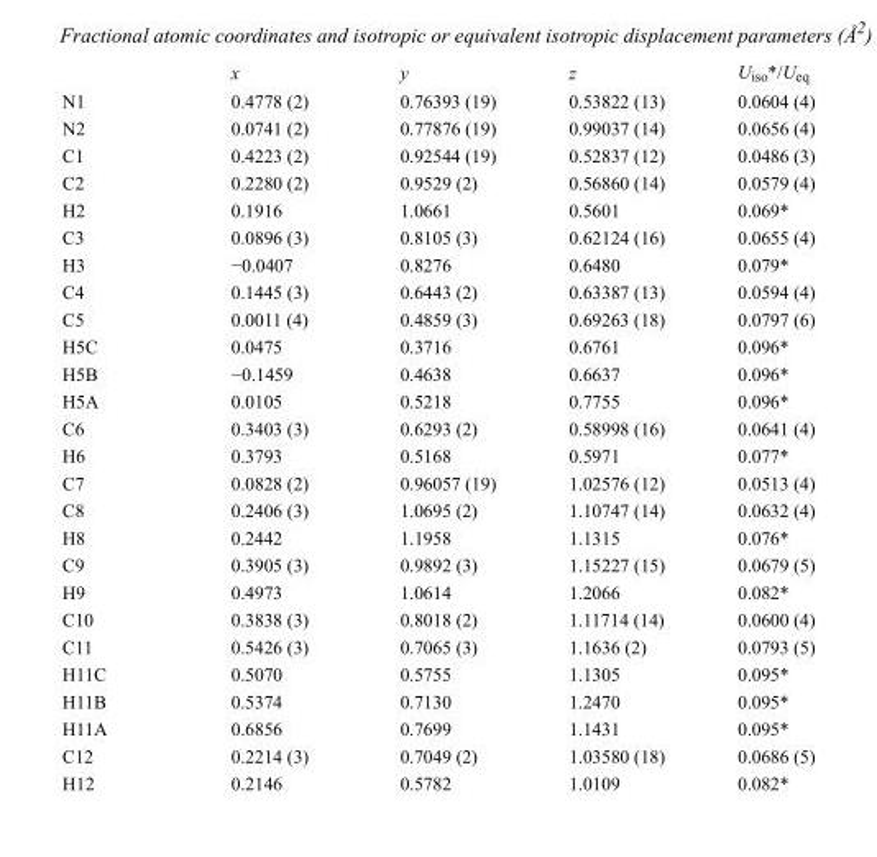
<table><thead><tr><td></td><td>x</td><td>y</td><td>z</td><td>U<sub>iso</sub>*/U<sub>eq</sub></td></tr></thead><tbody><tr><td>N1</td><td>0.4778 (2)</td><td>0.76393 (19)</td><td>0.53822 (13)</td><td>0.0604 (4)</td></tr><tr><td>N2</td><td>0.0741 (2)</td><td>0.77876 (19)</td><td>0.99037 (14)</td><td>0.0656 (4)</td></tr><tr><td>C1</td><td>0.4223 (2)</td><td>0.92544 (19)</td><td>0.52837 (12)</td><td>0.0486 (3)</td></tr><tr><td>C2</td><td>0.2280 (2)</td><td>0.9529 (2)</td><td>0.56860 (14)</td><td>0.0579 (4)</td></tr><tr><td>H2</td><td>0.1916</td><td>1.0661</td><td>0.5601</td><td>0.069*</td></tr><tr><td>C3</td><td>0.0896 (3)</td><td>0.8105 (3)</td><td>0.62124 (16)</td><td>0.0655 (4)</td></tr><tr><td>H3</td><td>−0.0407</td><td>0.8276</td><td>0.6480</td><td>0.079*</td></tr><tr><td>C4</td><td>0.1445 (3)</td><td>0.6443 (2)</td><td>0.63387 (13)</td><td>0.0594 (4)</td></tr><tr><td>C5</td><td>0.0011 (4)</td><td>0.4859 (3)</td><td>0.69263 (18)</td><td>0.0797 (6)</td></tr><tr><td>H5C</td><td>0.0475</td><td>0.3716</td><td>0.6761</td><td>0.096*</td></tr><tr><td>H5B</td><td>−0.1459</td><td>0.4638</td><td>0.6637</td><td>0.096*</td></tr><tr><td>H5A</td><td>0.0105</td><td>0.5218</td><td>0.7755</td><td>0.096*</td></tr><tr><td>C6</td><td>0.3403 (3)</td><td>0.6293 (2)</td><td>0.58998 (16)</td><td>0.0641 (4)</td></tr><tr><td>H6</td><td>0.3793</td><td>0.5168</td><td>0.5971</td><td>0.077*</td></tr><tr><td>C7</td><td>0.0828 (2)</td><td>0.96057 (19)</td><td>1.02576 (12)</td><td>0.0513 (4)</td></tr><tr><td>C8</td><td>0.2406 (3)</td><td>1.0695 (2)</td><td>1.10747 (14)</td><td>0.0632 (4)</td></tr><tr><td>H8</td><td>0.2442</td><td>1.1958</td><td>1.1315</td><td>0.076*</td></tr><tr><td>C9</td><td>0.3905 (3)</td><td>0.9892 (3)</td><td>1.15227 (15)</td><td>0.0679 (5)</td></tr><tr><td>H9</td><td>0.4973</td><td>1.0614</td><td>1.2066</td><td>0.082*</td></tr><tr><td>C10</td><td>0.3838 (3)</td><td>0.8018 (2)</td><td>1.11714 (14)</td><td>0.0600 (4)</td></tr><tr><td>C11</td><td>0.5426 (3)</td><td>0.7065 (3)</td><td>1.1636 (2)</td><td>0.0793 (5)</td></tr><tr><td>H11C</td><td>0.5070</td><td>0.5755</td><td>1.1305</td><td>0.095*</td></tr><tr><td>H11B</td><td>0.5374</td><td>0.7130</td><td>1.2470</td><td>0.095*</td></tr><tr><td>H11A</td><td>0.6856</td><td>0.7699</td><td>1.1431</td><td>0.095*</td></tr><tr><td>C12</td><td>0.2214 (3)</td><td>0.7049 (2)</td><td>1.03580 (18)</td><td>0.0686 (5)</td></tr><tr><td>H12</td><td>0.2146</td><td>0.5782</td><td>1.0109</td><td>0.082*</td></tr></tbody></table>